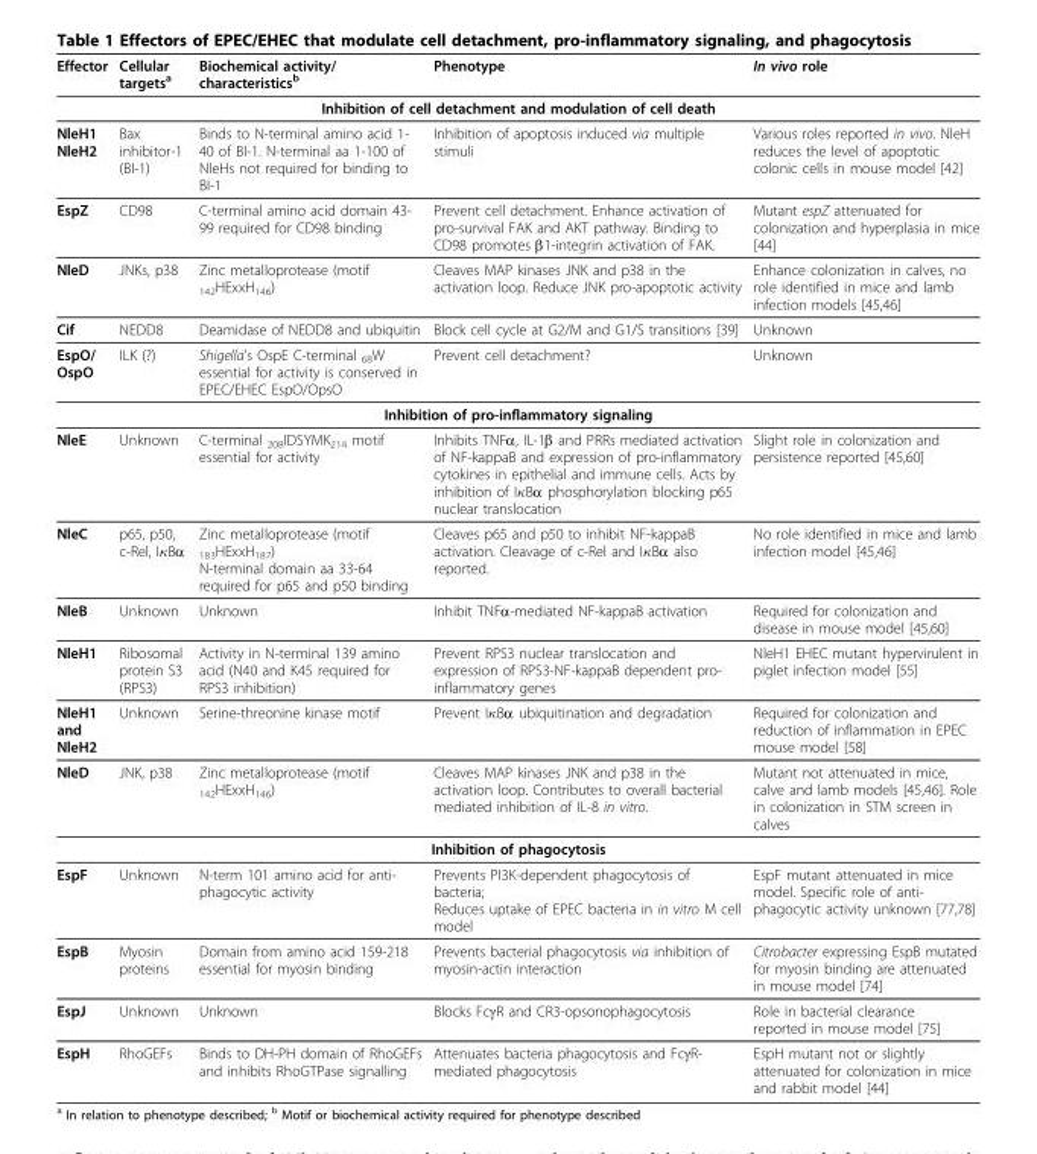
<table><thead><tr><td>Effector</td><td>Cellular targets<sup>a</sup></td><td>Biochemical activity/ characteristics<sup>b</sup></td><td>Phenotype</td><td>In vivo role</td></tr></thead><tbody><tr><td colspan="5">Inhibition of cell detachment and modulation of cell death</td></tr><tr><td>NleH1 NleH2</td><td>Bax inhibitor-1 (BI-1)</td><td>Binds to N-terminal amino acid 1- 40 of BI-1. N-terminal aa 1-100 of NleHs not required for binding to BI-1</td><td>Inhibition of apoptosis induced via multiple stimuli</td><td>Various roles reported in vivo. NleH reduces the level of apoptotic colonic cells in mouse model [42]</td></tr><tr><td>EspZ</td><td>CD98</td><td>C-terminal amino acid domain 43- 99 required for CD98 binding</td><td>Prevent cell detachment. Enhance activation of pro-survival FAK and AKT pathway. Binding to CD98 promotes β1-integrin activation of FAK.</td><td>Mutant espZ attenuated for colonization and hyperplasia in mice [44]</td></tr><tr><td>NleD</td><td>JNKs, p38</td><td>Zinc metalloprotease (motif <sub>142</sub>HExxH<sub>146</sub>)</td><td>Cleaves MAP kinases JNK and p38 in the activation loop. Reduce JNK pro-apoptotic activity</td><td>Enhance colonization in calves, no role identified in mice and lamb infection models [45,46]</td></tr><tr><td>Cif</td><td>NEDD8</td><td>Deamidase of NEDD8 and ubiquitin</td><td>Block cell cycle at G2/M and G1/S transitions [39]</td><td>Unknown</td></tr><tr><td>EspO/ OspO</td><td>ILK (?)</td><td>Shigella’s OspE C-terminal <sub>68</sub>W essential for activity is conserved in EPEC/EHEC EspO/OpsO</td><td>Prevent cell detachment?</td><td>Unknown</td></tr><tr><td colspan="5">Inhibition of pro-inflammatory signaling</td></tr><tr><td>NleE</td><td>Unknown</td><td>C-terminal <sub>208</sub>IDSYMK<sub>214</sub> motif essential for activity</td><td>Inhibits TNFα, IL-1β and PRRs mediated activation of NF-kappaB and expression of pro-inflammatory cytokines in epithelial and immune cells. Acts by inhibition of IκBα phosphorylation blocking p65 nuclear translocation</td><td>Slight role in colonization and persistence reported [45,60]</td></tr><tr><td>NleC</td><td>p65, p50, c-Rel, IκBα</td><td>Zinc metalloprotease (motif <sub>183</sub>HExxH<sub>187</sub>) N-terminal domain aa 33-64 required for p65 and p50 binding</td><td>Cleaves p65 and p50 to inhibit NF-kappaB activation. Cleavage of c-Rel and IκBα also reported.</td><td>No role identified in mice and lamb infection model [45,46]</td></tr><tr><td>NleB</td><td>Unknown</td><td>Unknown</td><td>Inhibit TNFα-mediated NF-kappaB activation</td><td>Required for colonization and disease in mouse model [45,60]</td></tr><tr><td>NleH1</td><td>Ribosomal protein S3 (RPS3)</td><td>Activity in N-terminal 139 amino acid (N40 and K45 required for RPS3 inhibition)</td><td>Prevent RPS3 nuclear translocation and expression of RPS3-NF-kappaB dependent pro- inflammatory genes</td><td>NleH1 EHEC mutant hypervirulent in piglet infection model [55]</td></tr><tr><td>NleH1 and NleH2</td><td>Unknown</td><td>Serine-threonine kinase motif</td><td>Prevent IκBα ubiquitination and degradation</td><td>Required for colonization and reduction of inflammation in EPEC mouse model [58]</td></tr><tr><td>NleD</td><td>JNK, p38</td><td>Zinc metalloprotease (motif <sub>142</sub>HExxH<sub>146</sub>)</td><td>Cleaves MAP kinases JNK and p38 in the activation loop. Contributes to overall bacterial mediated inhibition of IL-8 in vitro.</td><td>Mutant not attenuated in mice, calve and lamb models [45,46]. Role in colonization in STM screen in calves</td></tr><tr><td colspan="5">Inhibition of phagocytosis</td></tr><tr><td>EspF</td><td>Unknown</td><td>N-term 101 amino acid for anti- phagocytic activity</td><td>Prevents PI3K-dependent phagocytosis of bacteria; Reduces uptake of EPEC bacteria in in vitro M cell model</td><td>EspF mutant attenuated in mice model. Specific role of anti- phagocytic activity unknown [77,78]</td></tr><tr><td>EspB</td><td>Myosin proteins</td><td>Domain from amino acid 159-218 essential for myosin binding</td><td>Prevents bacterial phagocytosis via inhibition of myosin-actin interaction</td><td>Citrobacter expressing EspB mutated for myosin binding are attenuated in mouse model [74]</td></tr><tr><td>EspJ</td><td>Unknown</td><td>Unknown</td><td>Blocks FcγR and CR3-opsonophagocytosis</td><td>Role in bacterial clearance reported in mouse model [75]</td></tr><tr><td>EspH</td><td>RhoGEFs</td><td>Binds to DH-PH domain of RhoGEFs and inhibits RhoGTPase signalling</td><td>Attenuates bacteria phagocytosis and FcγR- mediated phagocytosis</td><td>EspH mutant not or slightly attenuated for colonization in mice and rabbit model [44]</td></tr></tbody></table>